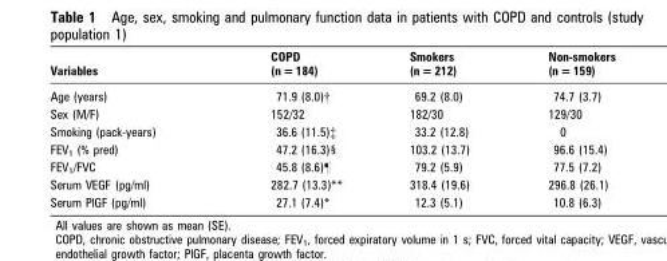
<table><thead><tr><td rowspan="2">Variables</td><td rowspan="2">COPD (n = 184)</td><td rowspan="2">Smokers (n = 212)</td><td rowspan="2">Non-smokers (n = 159)</td></tr><tr></tr></thead><tbody><tr><td>Age (years)</td><td>71.9 (8.0)†</td><td>69.2 (8.0)</td><td>74.7 (3.7)</td></tr><tr><td>Sex (M/F)</td><td>152/32</td><td>182/30</td><td>129/30</td></tr><tr><td>Smoking (pack-years)</td><td>36.6 (11.5)‡</td><td>33.2 (12.8)</td><td>0</td></tr><tr><td>FEV<sub>1</sub> (% pred)</td><td>47.2 (16.3)§</td><td>103.2 (13.7)</td><td>96.6 (15.4)</td></tr><tr><td>FEV<sub>1</sub>/FVC</td><td>45.8 (8.6)¶</td><td>79.2 (5.9)</td><td>77.5 (7.2)</td></tr><tr><td>Serum VEGF (pg/ml)</td><td>282.7 (13.3)**</td><td>318.4 (19.6)</td><td>296.8 (26.1)</td></tr><tr><td>Serum PlGF (pg/ml)</td><td>27.1 (7.4)*</td><td>12.3 (5.1)</td><td>10.8 (6.3)</td></tr></tbody></table>